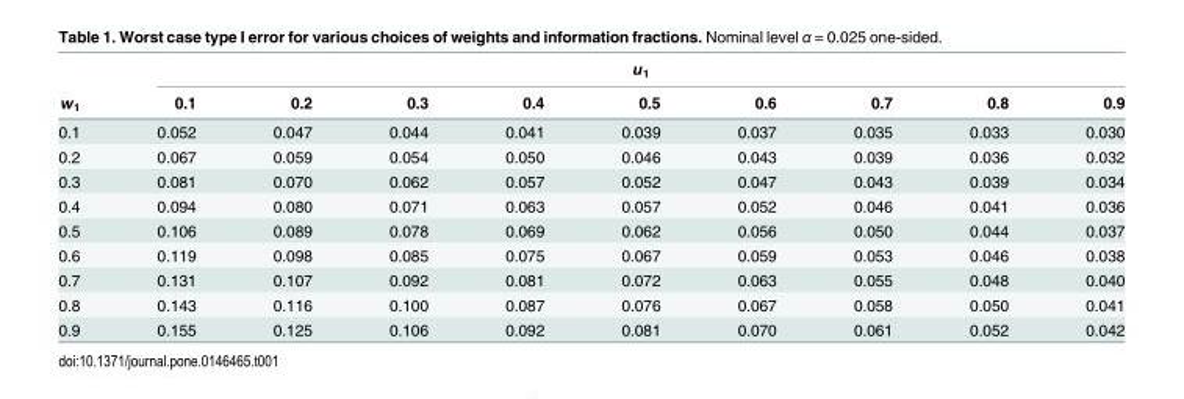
<table><thead><tr><td rowspan="2">w<sub>1</sub></td><td colspan="9">u<sub>1</sub></td></tr><tr><td>0.1</td><td>0.2</td><td>0.3</td><td>0.4</td><td>0.5</td><td>0.6</td><td>0.7</td><td>0.8</td><td>0.9</td></tr></thead><tbody><tr><td>0.1</td><td>0.052</td><td>0.047</td><td>0.044</td><td>0.041</td><td>0.039</td><td>0.037</td><td>0.035</td><td>0.033</td><td>0.030</td></tr><tr><td>0.2</td><td>0.067</td><td>0.059</td><td>0.054</td><td>0.050</td><td>0.046</td><td>0.043</td><td>0.039</td><td>0.036</td><td>0.032</td></tr><tr><td>0.3</td><td>0.081</td><td>0.070</td><td>0.062</td><td>0.057</td><td>0.052</td><td>0.047</td><td>0.043</td><td>0.039</td><td>0.034</td></tr><tr><td>0.4</td><td>0.094</td><td>0.080</td><td>0.071</td><td>0.063</td><td>0.057</td><td>0.052</td><td>0.046</td><td>0.041</td><td>0.036</td></tr><tr><td>0.5</td><td>0.106</td><td>0.089</td><td>0.078</td><td>0.069</td><td>0.062</td><td>0.056</td><td>0.050</td><td>0.044</td><td>0.037</td></tr><tr><td>0.6</td><td>0.119</td><td>0.098</td><td>0.085</td><td>0.075</td><td>0.067</td><td>0.059</td><td>0.053</td><td>0.046</td><td>0.038</td></tr><tr><td>0.7</td><td>0.131</td><td>0.107</td><td>0.092</td><td>0.081</td><td>0.072</td><td>0.063</td><td>0.055</td><td>0.048</td><td>0.040</td></tr><tr><td>0.8</td><td>0.143</td><td>0.116</td><td>0.100</td><td>0.087</td><td>0.076</td><td>0.067</td><td>0.058</td><td>0.050</td><td>0.041</td></tr><tr><td>0.9</td><td>0.155</td><td>0.125</td><td>0.106</td><td>0.092</td><td>0.081</td><td>0.070</td><td>0.061</td><td>0.052</td><td>0.042</td></tr></tbody></table>